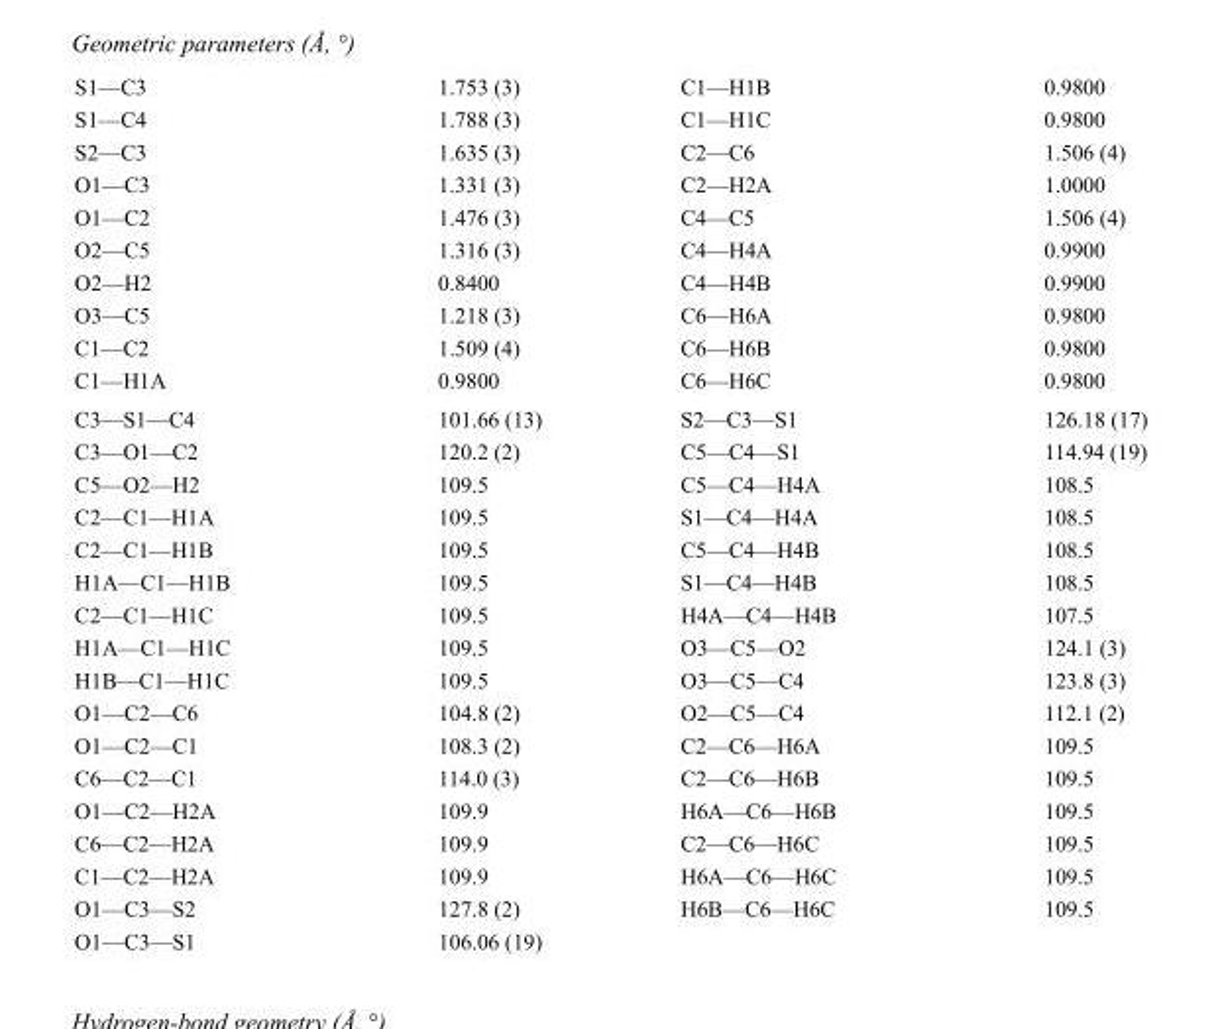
<table><tbody><tr><td>S1—C3</td><td>1.753 (3)</td><td>C1—H1B</td><td>0.9800</td></tr><tr><td>S1—C4</td><td>1.788 (3)</td><td>C1—H1C</td><td>0.9800</td></tr><tr><td>S2—C3</td><td>1.635 (3)</td><td>C2—C6</td><td>1.506 (4)</td></tr><tr><td>O1—C3</td><td>1.331 (3)</td><td>C2—H2A</td><td>1.0000</td></tr><tr><td>O1—C2</td><td>1.476 (3)</td><td>C4—C5</td><td>1.506 (4)</td></tr><tr><td>O2—C5</td><td>1.316 (3)</td><td>C4—H4A</td><td>0.9900</td></tr><tr><td>O2—H2</td><td>0.8400</td><td>C4—H4B</td><td>0.9900</td></tr><tr><td>O3—C5</td><td>1.218 (3)</td><td>C6—H6A</td><td>0.9800</td></tr><tr><td>C1—C2</td><td>1.509 (4)</td><td>C6—H6B</td><td>0.9800</td></tr><tr><td>C1—H1A</td><td>0.9800</td><td>C6—H6C</td><td>0.9800</td></tr><tr><td>C3—S1—C4</td><td>101.66 (13)</td><td>S2—C3—S1</td><td>126.18 (17)</td></tr><tr><td>C3—O1—C2</td><td>120.2 (2)</td><td>C5—C4—S1</td><td>114.94 (19)</td></tr><tr><td>C5—O2—H2</td><td>109.5</td><td>C5—C4—H4A</td><td>108.5</td></tr><tr><td>C2—C1—H1A</td><td>109.5</td><td>S1—C4—H4A</td><td>108.5</td></tr><tr><td>C2—C1—H1B</td><td>109.5</td><td>C5—C4—H4B</td><td>108.5</td></tr><tr><td>H1A—C1—H1B</td><td>109.5</td><td>S1—C4—H4B</td><td>108.5</td></tr><tr><td>C2—C1—H1C</td><td>109.5</td><td>H4A—C4—H4B</td><td>107.5</td></tr><tr><td>H1A—C1—H1C</td><td>109.5</td><td>O3—C5—O2</td><td>124.1 (3)</td></tr><tr><td>H1B—C1—H1C</td><td>109.5</td><td>O3—C5—C4</td><td>123.8 (3)</td></tr><tr><td>O1—C2—C6</td><td>104.8 (2)</td><td>O2—C5—C4</td><td>112.1 (2)</td></tr><tr><td>O1—C2—C1</td><td>108.3 (2)</td><td>C2—C6—H6A</td><td>109.5</td></tr><tr><td>C6—C2—C1</td><td>114.0 (3)</td><td>C2—C6—H6B</td><td>109.5</td></tr><tr><td>O1—C2—H2A</td><td>109.9</td><td>H6A—C6—H6B</td><td>109.5</td></tr><tr><td>C6—C2—H2A</td><td>109.9</td><td>C2—C6—H6C</td><td>109.5</td></tr><tr><td>C1—C2—H2A</td><td>109.9</td><td>H6A—C6—H6C</td><td>109.5</td></tr><tr><td>O1—C3—S2</td><td>127.8 (2)</td><td>H6B—C6—H6C</td><td>109.5</td></tr><tr><td>O1—C3—S1</td><td>106.06 (19)</td><td></td><td></td></tr></tbody></table>